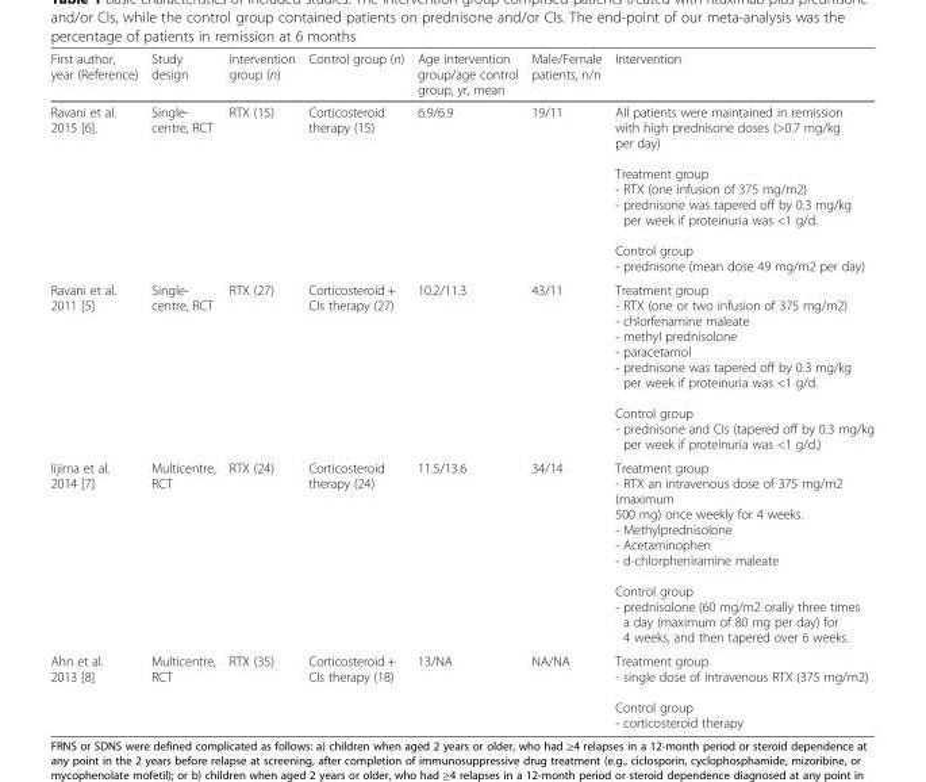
<table><thead><tr><td>First author, year (Reference)</td><td>Study design</td><td>Intervention group (n)</td><td>Control group (n)</td><td>Age intervention group/age control group, yr, mean</td><td>Male/Female patients, n/n</td><td>Intervention</td></tr></thead><tbody><tr><td>Ravani et al. 2015 [6].</td><td>Single- centre, RCT</td><td>RTX (15)</td><td>Corticosteroid therapy (15)</td><td>6.9/6.9</td><td>19/11</td><td>All patients were maintained in remission with high prednisone doses (&gt;0.7 mg/kg per day) Treatment group - RTX (one infusion of 375 mg/m2) - prednisone was tapered off by 0.3 mg/kg per week if proteinuria was &lt;1 g/d. Control group - prednisone (mean dose 49 mg/m2 per day)</td></tr><tr><td>Ravani et al. 2011 [5]</td><td>Single- centre, RCT</td><td>RTX (27)</td><td>Corticosteroid + CIs therapy (27)</td><td>10.2/11.3</td><td>43/11</td><td>Treatment group - RTX (one or two infusion of 375 mg/m2) - chlorfenamine maleate - methyl prednisolone - paracetamol - prednisone was tapered off by 0.3 mg/kg per week if proteinuria was &lt;1 g/d. Control group - prednisone and CIs (tapered off by 0.3 mg/kg per week if proteinuria was &lt;1 g/d.)</td></tr><tr><td>Iijima et al. 2014 [7]</td><td>Multicentre, RCT</td><td>RTX (24)</td><td>Corticosteroid therapy (24)</td><td>11.5/13.6</td><td>34/14</td><td>Treatment group - RTX an intravenous dose of 375 mg/m2 (maximum 500 mg) once weekly for 4 weeks. - Methylprednisolone - Acetaminophen - d-chlorpheniramine maleate Control group - prednisolone (60 mg/m2 orally three times a day (maximum of 80 mg per day) for 4 weeks, and then tapered over 6 weeks.</td></tr><tr><td>Ahn et al. 2013 [8]</td><td>Multicentre, RCT</td><td>RTX (35)</td><td>Corticosteroid + CIs therapy (18)</td><td>13/NA</td><td>NA/NA</td><td>Treatment group - single dose of intravenous RTX (375 mg/m2) Control group - corticosteroid therapy</td></tr></tbody></table>